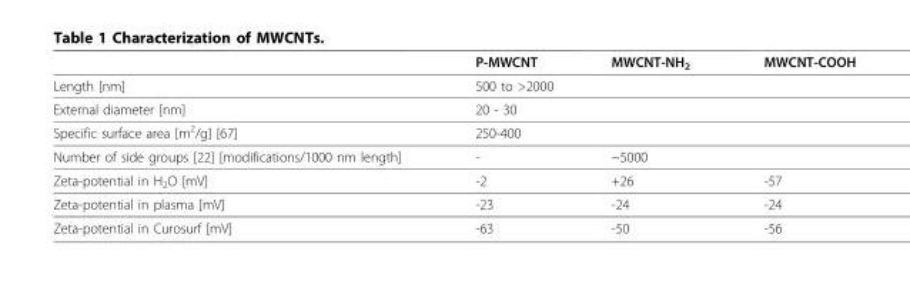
<table><thead><tr><td></td><td>P-MWCNT</td><td>MWCNT-NH<sub>2</sub></td><td>MWCNT-COOH</td></tr></thead><tbody><tr><td>Length [nm]</td><td colspan="3">500 to &gt;2000</td></tr><tr><td>External diameter [nm]</td><td colspan="3">20 - 30</td></tr><tr><td>Specific surface area [m<sup>2</sup>/g] [67]</td><td colspan="3">250-400</td></tr><tr><td>Number of side groups [22] [modifications/1000 nm length]</td><td>-</td><td colspan="2">~5000</td></tr><tr><td>Zeta-potential in H<sub>2</sub>O [mV]</td><td>-2</td><td>+26</td><td>-57</td></tr><tr><td>Zeta-potential in plasma [mV]</td><td>-23</td><td>-24</td><td>-24</td></tr><tr><td>Zeta-potential in Curosurf [mV]</td><td>-63</td><td>-50</td><td>-56</td></tr></tbody></table>